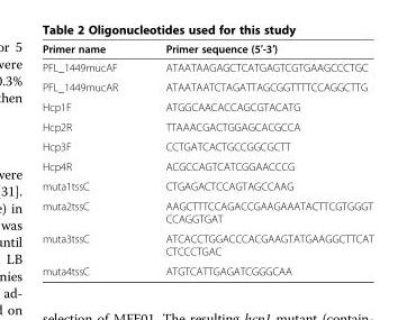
<table><thead><tr><td>Primer name</td><td>Primer sequence (5′-3′)</td></tr></thead><tbody><tr><td>PFL_1449mucAF</td><td>ATAATAAGAGCTCATGAGTCGTGAAGCCCTGC</td></tr><tr><td>PFL_1449mucAR</td><td>ATAATAATCTAGATTAGCGGTTTTCCAGGCTTG</td></tr><tr><td>Hcp1F</td><td>ATGGCAACACCAGCGTACATG</td></tr><tr><td>Hcp2R</td><td>TTAAACGACTGGAGCACGCCA</td></tr><tr><td>Hcp3F</td><td>CCTGATCACTGCCGGCGCTT</td></tr><tr><td>Hcp4R</td><td>ACGCCAGTCATCGGAACCCG</td></tr><tr><td>muta1tssC</td><td>CTGAGACTCCAGTAGCCAAG</td></tr><tr><td>muta2tssC</td><td>AAGCTTTCCAGACCGAAGAAATACTTCGTGGGT CCAGGTGAT</td></tr><tr><td>muta3tssC</td><td>ATCACCTGGACCCACGAAGTATGAAGGCTTCAT CTCCCTGAC</td></tr><tr><td>muta4tssC</td><td>ATGTCATTGAGATCGGGCAA</td></tr></tbody></table>